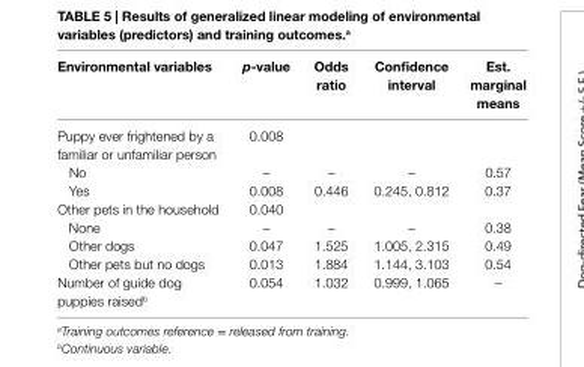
<table><thead><tr><td>environmental variables</td><td>p-value</td><td>Odds ratio</td><td>confidence interval</td><td>est. marginal means</td></tr></thead><tbody><tr><td>Puppy ever frightened by a familiar or unfamiliar person</td><td>0.008</td><td></td><td></td><td></td></tr><tr><td>No</td><td>–</td><td>–</td><td>–</td><td>0.57</td></tr><tr><td>Yes</td><td>0.008</td><td>0.446</td><td>0.245, 0.812</td><td>0.37</td></tr><tr><td>Other pets in the household</td><td>0.040</td><td></td><td></td><td></td></tr><tr><td>None</td><td>–</td><td>–</td><td>–</td><td>0.38</td></tr><tr><td>Other dogs</td><td>0.047</td><td>1.525</td><td>1.005, 2.315</td><td>0.49</td></tr><tr><td>Other pets but no dogs</td><td>0.013</td><td>1.884</td><td>1.144, 3.103</td><td>0.54</td></tr><tr><td>Number of guide dog puppies raised<sup>b</sup></td><td>0.054</td><td>1.032</td><td>0.999, 1.065</td><td>–</td></tr></tbody></table>